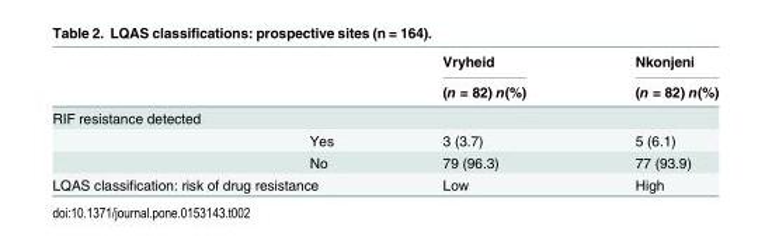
<table><thead><tr><td rowspan="2"></td><td rowspan="2"></td><td rowspan="2">Vryheid (n = 82) n(%)</td><td rowspan="2">Nkonjeni (n = 82) n(%)</td></tr><tr></tr></thead><tbody><tr><td colspan="4">RIF resistance detected</td></tr><tr><td></td><td>Yes</td><td>3 (3.7)</td><td>5 (6.1)</td></tr><tr><td></td><td>No</td><td>79 (96.3)</td><td>77 (93.9)</td></tr><tr><td colspan="2">LQAS classification: risk of drug resistance</td><td>Low</td><td>High</td></tr></tbody></table>